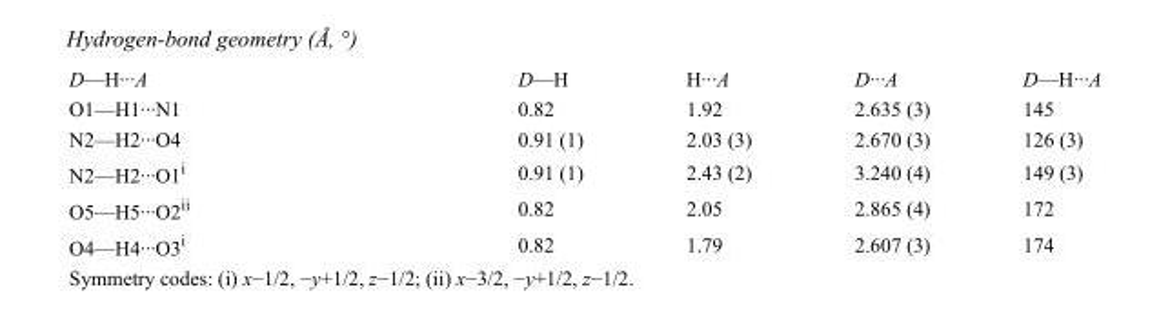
<table><tbody><tr><td>D—H···A</td><td>D—H</td><td>H···A</td><td>D···A</td><td>D—H···A</td></tr><tr><td>O1—H1···N1</td><td>0.82</td><td>1.92</td><td>2.635 (3)</td><td>145</td></tr><tr><td>N2—H2···O4</td><td>0.91 (1)</td><td>2.03 (3)</td><td>2.670 (3)</td><td>126 (3)</td></tr><tr><td>N2—H2···O1<sup>i</sup></td><td>0.91 (1)</td><td>2.43 (2)</td><td>3.240 (4)</td><td>149 (3)</td></tr><tr><td>O5—H5···O2<sup>ii</sup></td><td>0.82</td><td>2.05</td><td>2.865 (4)</td><td>172</td></tr><tr><td>O4—H4···O3<sup>i</sup></td><td>0.82</td><td>1.79</td><td>2.607 (3)</td><td>174</td></tr></tbody></table>